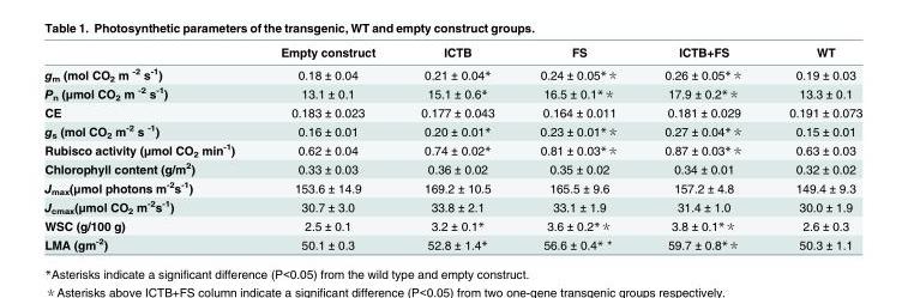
<table><thead><tr><td></td><td>Empty construct</td><td>ICTB</td><td>FS</td><td>ICTB+FS</td><td>WT</td></tr></thead><tbody><tr><td>g<sub>m</sub> (mol CO<sub>2</sub> m <sup>-2</sup> s<sup>-1</sup>)</td><td>0.18 ± 0.04</td><td>0.21 ± 0.04*</td><td>0.24 ± 0.05*＊</td><td>0.26 ± 0.05*＊</td><td>0.19 ± 0.03</td></tr><tr><td>P<sub>n</sub> (μmol CO<sub>2</sub> m <sup>-2</sup> s<sup>-1</sup>)</td><td>13.1 ± 0.1</td><td>15.1 ± 0.6*</td><td>16.5 ± 0.1*＊</td><td>17.9 ± 0.2*＊</td><td>13.3 ± 0.1</td></tr><tr><td>CE</td><td>0.183 ± 0.023</td><td>0.177 ± 0.043</td><td>0.164 ± 0.011</td><td>0.181 ± 0.029</td><td>0.191 ± 0.073</td></tr><tr><td>g<sub>s</sub> (mol CO<sub>2</sub> m<sup>-2</sup> s <sup>-1</sup>)</td><td>0.16 ± 0.01</td><td>0.20 ± 0.01*</td><td>0.23 ± 0.01*＊</td><td>0.27 ± 0.04*＊</td><td>0.15 ± 0.01</td></tr><tr><td>Rubisco activity (μmol CO<sub>2</sub> min<sup>-1</sup>)</td><td>0.62 ± 0.04</td><td>0.74 ± 0.02*</td><td>0.81 ± 0.03*＊</td><td>0.87 ± 0.03*＊</td><td>0.63 ± 0.03</td></tr><tr><td>Chlorophyll content (g/m<sup>2</sup>)</td><td>0.33 ± 0.03</td><td>0.36 ± 0.02</td><td>0.35 ± 0.02</td><td>0.34 ± 0.01</td><td>0.32 ± 0.02</td></tr><tr><td>J<sub>max</sub>(μmol photons m<sup>-2</sup>s<sup>-1</sup>)</td><td>153.6 ± 14.9</td><td>169.2 ± 10.5</td><td>165.5 ± 9.6</td><td>157.2 ± 4.8</td><td>149.4 ± 9.3</td></tr><tr><td>J<sub>cmax</sub>(μmol CO<sub>2</sub> m<sup>-2</sup>s<sup>-1</sup>)</td><td>30.7 ± 3.0</td><td>33.8 ± 2.1</td><td>33.1 ± 1.9</td><td>31.4 ± 1.0</td><td>30.0 ± 1.9</td></tr><tr><td>WSC (g/100 g)</td><td>2.5 ± 0.1</td><td>3.2 ± 0.1*</td><td>3.6 ± 0.2*＊</td><td>3.8 ± 0.1*＊</td><td>2.6 ± 0.3</td></tr><tr><td>LMA (gm<sup>-2</sup>)</td><td>50.1 ± 0.3</td><td>52.8 ± 1.4*</td><td>56.6 ± 0.4*＊</td><td>59.7 ± 0.8*＊</td><td>50.3 ± 1.1</td></tr></tbody></table>